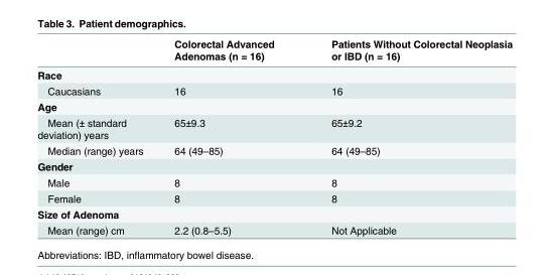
<table><thead><tr><td></td><td>Colorectal Advanced Adenomas (n = 16)</td><td>Patients Without Colorectal Neoplasia or IBD (n = 16)</td></tr></thead><tbody><tr><td colspan="3">Race</td></tr><tr><td>Caucasians</td><td>16</td><td>16</td></tr><tr><td colspan="3">Age</td></tr><tr><td>Mean (± standard deviation) years</td><td>65±9.3</td><td>65±9.2</td></tr><tr><td>Median (range) years</td><td>64 (49–85)</td><td>64 (49–85)</td></tr><tr><td colspan="3">Gender</td></tr><tr><td>Male</td><td>8</td><td>8</td></tr><tr><td>Female</td><td>8</td><td>8</td></tr><tr><td colspan="3">Size of Adenoma</td></tr><tr><td>Mean (range) cm</td><td>2.2 (0.8–5.5)</td><td>Not Applicable</td></tr></tbody></table>